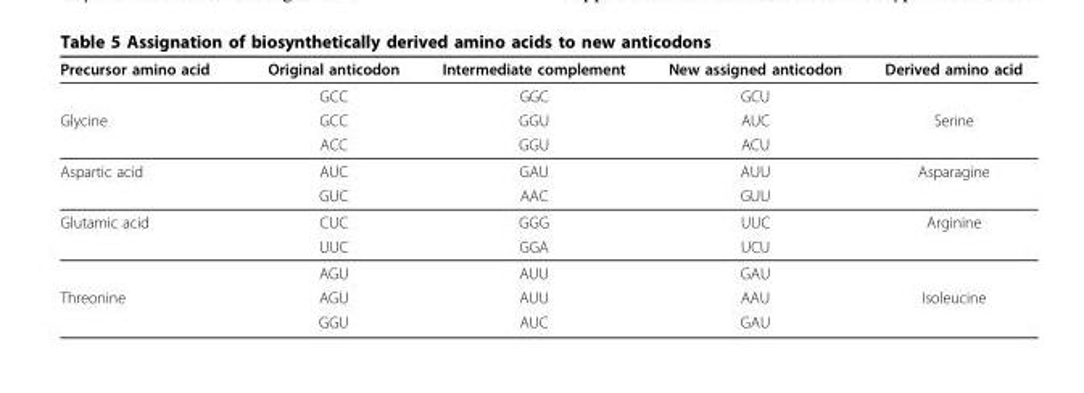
<table><thead><tr><td>Precursor amino acid</td><td>Original anticodon</td><td>Intermediate complement</td><td>New assigned anticodon</td><td>Derived amino acid</td></tr></thead><tbody><tr><td></td><td>GCC</td><td>GGC</td><td>GCU</td><td></td></tr><tr><td rowspan="2">Glycine</td><td>GCC</td><td>GGU</td><td>AUC</td><td>Serine</td></tr><tr><td>ACC</td><td>GGU</td><td>ACU</td><td></td></tr><tr><td rowspan="2">Aspartic acid</td><td>AUC</td><td>GAU</td><td>AUU</td><td>Asparagine</td></tr><tr><td>GUC</td><td>AAC</td><td>GUU</td><td></td></tr><tr><td rowspan="3">Glutamic acid</td><td>CUC</td><td>GGG</td><td>UUC</td><td>Arginine</td></tr><tr><td>UUC</td><td>GGA</td><td>UCU</td><td></td></tr><tr><td>AGU</td><td>AUU</td><td>GAU</td><td></td></tr><tr><td rowspan="2">Threonine</td><td>AGU</td><td>AUU</td><td>AAU</td><td>Isoleucine</td></tr><tr><td>GGU</td><td>AUC</td><td>GAU</td><td></td></tr></tbody></table>